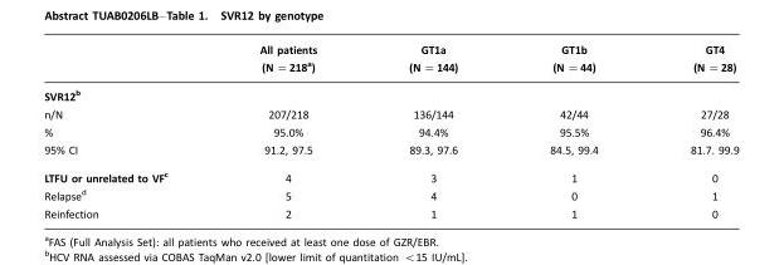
<table><thead><tr><td rowspan="2"></td><td rowspan="2">All patients (N =218a)</td><td rowspan="2">GT1a (N =144)</td><td rowspan="2">GT1b (N =44)</td><td rowspan="2">GT4 (N =28)</td></tr><tr></tr></thead><tbody><tr><td colspan="5">SVR12b</td></tr><tr><td>n/N</td><td>207/218</td><td>136/144</td><td>42/44</td><td>27/28</td></tr><tr><td>%</td><td>95.0%</td><td>94.4%</td><td>95.5%</td><td>96.4%</td></tr><tr><td>95% CI</td><td>91.2, 97.5</td><td>89.3, 97.6</td><td>84.5, 99.4</td><td>81.7. 99.9</td></tr><tr><td>LTFU or unrelated to VFc</td><td>4</td><td>3</td><td>1</td><td>0</td></tr><tr><td>Relapsed</td><td>5</td><td>4</td><td>0</td><td>1</td></tr><tr><td>Reinfection</td><td>2</td><td>1</td><td>1</td><td>0</td></tr></tbody></table>